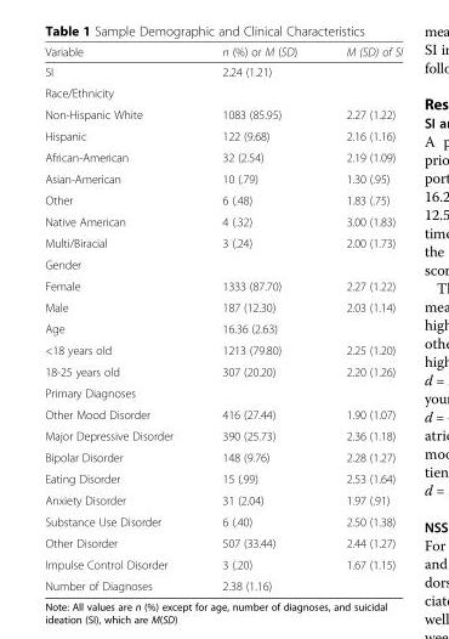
<table><thead><tr><td>Variable</td><td>n (%) or M (SD)</td><td>M (SD) of SI</td></tr></thead><tbody><tr><td>SI</td><td>2.24 (1.21)</td><td></td></tr><tr><td colspan="3">Race/Ethnicity</td></tr><tr><td>Non-Hispanic White</td><td>1083 (85.95)</td><td>2.27 (1.22)</td></tr><tr><td>Hispanic</td><td>122 (9.68)</td><td>2.16 (1.16)</td></tr><tr><td>African-American</td><td>32 (2.54)</td><td>2.19 (1.09)</td></tr><tr><td>Asian-American</td><td>10 (.79)</td><td>1.30 (.95)</td></tr><tr><td>Other</td><td>6 (.48)</td><td>1.83 (.75)</td></tr><tr><td>Native American</td><td>4 (.32)</td><td>3.00 (1.83)</td></tr><tr><td>Multi/Biracial</td><td>3 (.24)</td><td>2.00 (1.73)</td></tr><tr><td colspan="3">Gender</td></tr><tr><td>Female</td><td>1333 (87.70)</td><td>2.27 (1.22)</td></tr><tr><td>Male</td><td>187 (12.30)</td><td>2.03 (1.14)</td></tr><tr><td>Age</td><td>16.36 (2.63)</td><td></td></tr><tr><td>&lt;18 years old</td><td>1213 (79.80)</td><td>2.25 (1.20)</td></tr><tr><td>18-25 years old</td><td>307 (20.20)</td><td>2.20 (1.26)</td></tr><tr><td colspan="3">Primary Diagnoses</td></tr><tr><td>Other Mood Disorder</td><td>416 (27.44)</td><td>1.90 (1.07)</td></tr><tr><td>Major Depressive Disorder</td><td>390 (25.73)</td><td>2.36 (1.18)</td></tr><tr><td>Bipolar Disorder</td><td>148 (9.76)</td><td>2.28 (1.27)</td></tr><tr><td>Eating Disorder</td><td>15 (.99)</td><td>2.53 (1.64)</td></tr><tr><td>Anxiety Disorder</td><td>31 (2.04)</td><td>1.97 (.91)</td></tr><tr><td>Substance Use Disorder</td><td>6 (.40)</td><td>2.50 (1.38)</td></tr><tr><td>Other Disorder</td><td>507 (33.44)</td><td>2.44 (1.27)</td></tr><tr><td>Impulse Control Disorder</td><td>3 (.20)</td><td>1.67 (1.15)</td></tr><tr><td>Number of Diagnoses</td><td>2.38 (1.16)</td><td></td></tr></tbody></table>